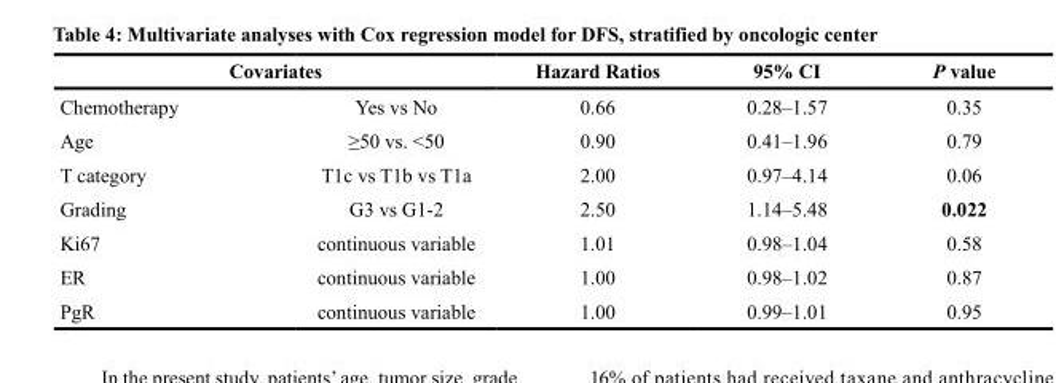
<table><thead><tr><td colspan="2">Covariates</td><td rowspan="2">Hazard Ratios 0.66</td><td rowspan="2">95% CI 0.28–1.57</td><td rowspan="2">P value 0.35</td></tr><tr><td>Chemotherapy</td><td>Yes vs No</td></tr></thead><tbody><tr><td>Age</td><td>≥50 vs. &lt;50</td><td>0.90</td><td>0.41–1.96</td><td>0.79</td></tr><tr><td>T category</td><td>T1c vs T1b vs T1a</td><td>2.00</td><td>0.97–4.14</td><td>0.06</td></tr><tr><td>Grading</td><td>G3 vs G1-2</td><td>2.50</td><td>1.14–5.48</td><td>0.022</td></tr><tr><td>Ki67</td><td>continuous variable</td><td>1.01</td><td>0.98–1.04</td><td>0.58</td></tr><tr><td>ER</td><td>continuous variable</td><td>1.00</td><td>0.98–1.02</td><td>0.87</td></tr><tr><td>PgR</td><td>continuous variable</td><td>1.00</td><td>0.99–1.01</td><td>0.95</td></tr></tbody></table>